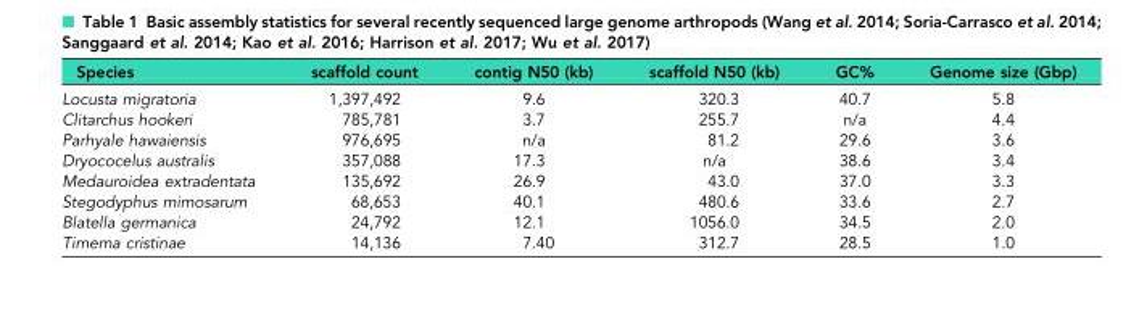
<table><thead><tr><td>Species</td><td>scaffold count</td><td>contig N50 (kb)</td><td>scaffold N50 (kb)</td><td>GC%</td><td>Genome size (Gbp)</td></tr></thead><tbody><tr><td>Locusta migratoria</td><td>1,397,492</td><td>9.6</td><td>320.3</td><td>40.7</td><td>5.8</td></tr><tr><td>Clitarchus hookeri</td><td>785,781</td><td>3.7</td><td>255.7</td><td>n/a</td><td>4.4</td></tr><tr><td>Parhyale hawaiensis</td><td>976,695</td><td>n/a</td><td>81.2</td><td>29.6</td><td>3.6</td></tr><tr><td>Dryococelus australis</td><td>357,088</td><td>17.3</td><td>n/a</td><td>38.6</td><td>3.4</td></tr><tr><td>Medauroidea extradentata</td><td>135,692</td><td>26.9</td><td>43.0</td><td>37.0</td><td>3.3</td></tr><tr><td>Stegodyphus mimosarum</td><td>68,653</td><td>40.1</td><td>480.6</td><td>33.6</td><td>2.7</td></tr><tr><td>Blatella germanica</td><td>24,792</td><td>12.1</td><td>1056.0</td><td>34.5</td><td>2.0</td></tr><tr><td>Timema cristinae</td><td>14,136</td><td>7.40</td><td>312.7</td><td>28.5</td><td>1.0</td></tr></tbody></table>